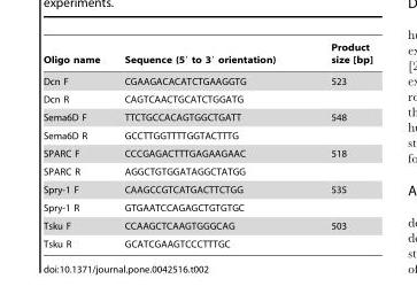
<table><thead><tr><td>Oligo name</td><td>Sequence (5′ to 3′ orientation)</td><td>Product size [bp]</td></tr></thead><tbody><tr><td>Dcn F</td><td>CGAAGACACATCTGAAGGTG</td><td>523</td></tr><tr><td>Dcn R</td><td>CAGTCAACTGCATCTGGATG</td><td></td></tr><tr><td>Sema6D F</td><td>TTCTGCCACAGTGGCTGATT</td><td>548</td></tr><tr><td>Sema6D R</td><td>GCCTTGGTTTTGGTACTTTG</td><td></td></tr><tr><td>SPARC F</td><td>CCCGAGACTTTGAGAAGAAC</td><td>518</td></tr><tr><td>SPARC R</td><td>AGGCTGTGGATAGGCTATGG</td><td></td></tr><tr><td>Spry-1 F</td><td>CAAGCCGTCATGACTTCTGG</td><td>535</td></tr><tr><td>Spry-1 R</td><td>GTGAATCCAGAGCTGTGTGC</td><td></td></tr><tr><td>Tsku F</td><td>CCAAGCTCAAGTGGGCAG</td><td>503</td></tr><tr><td>Tsku R</td><td>GCATCGAAGTCCCTTTGC</td><td></td></tr></tbody></table>